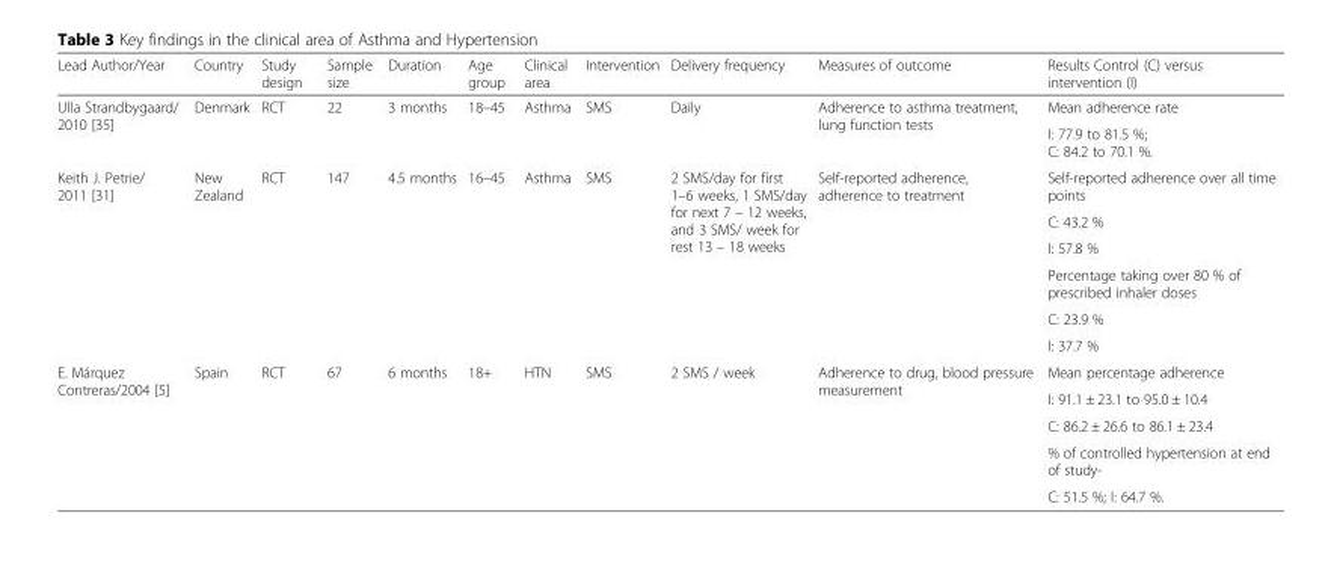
<table><thead><tr><td>Lead Author/Year</td><td>Country</td><td>Study design</td><td>Sample size</td><td>Duration</td><td>Age group</td><td>Clinical area</td><td>Intervention</td><td>Delivery frequency</td><td>Measures of outcome</td><td>Results Control (C) versus intervention (I)</td></tr></thead><tbody><tr><td rowspan="2">Ulla Strandbygaard/ 2010 [35]</td><td rowspan="2">Denmark</td><td rowspan="2">RCT</td><td rowspan="2">22</td><td rowspan="2">3 months</td><td rowspan="2">18–45</td><td rowspan="2">Asthma</td><td rowspan="2">SMS</td><td rowspan="2">Daily</td><td rowspan="2">Adherence to asthma treatment, lung function tests</td><td>Mean adherence rate</td></tr><tr><td>I: 77.9 to 81.5 %; C: 84.2 to 70.1 %.</td></tr><tr><td rowspan="6">Keith J. Petrie/ 2011 [31]</td><td rowspan="6">New Zealand</td><td rowspan="6">RCT</td><td rowspan="6">147</td><td rowspan="6">4.5 months</td><td rowspan="6">16–45</td><td rowspan="6">Asthma</td><td rowspan="6">SMS</td><td rowspan="6">2 SMS/day for first 1–6 weeks, 1 SMS/day for next 7 – 12 weeks, and 3 SMS/ week for rest 13 – 18 weeks</td><td rowspan="6">Self-reported adherence, adherence to treatment</td><td>Self-reported adherence over all time points</td></tr><tr><td>C: 43.2 %</td></tr><tr><td>I: 57.8 %</td></tr><tr><td>Percentage taking over 80 % of prescribed inhaler doses</td></tr><tr><td>C: 23.9 %</td></tr><tr><td>I: 37.7 %</td></tr><tr><td rowspan="5">E. Márquez Contreras/2004 [5]</td><td rowspan="5">Spain</td><td rowspan="5">RCT</td><td rowspan="5">67</td><td rowspan="5">6 months</td><td rowspan="5">18+</td><td rowspan="5">HTN</td><td rowspan="5">SMS</td><td rowspan="5">2 SMS / week</td><td rowspan="5">Adherence to drug, blood pressure measurement</td><td>Mean percentage adherence</td></tr><tr><td>I: 91.1 ± 23.1 to 95.0 ± 10.4</td></tr><tr><td>C: 86.2 ± 26.6 to 86.1 ± 23.4</td></tr><tr><td>% of controlled hypertension at end of study-</td></tr><tr><td>C: 51.5 %; I: 64.7 %.</td></tr></tbody></table>